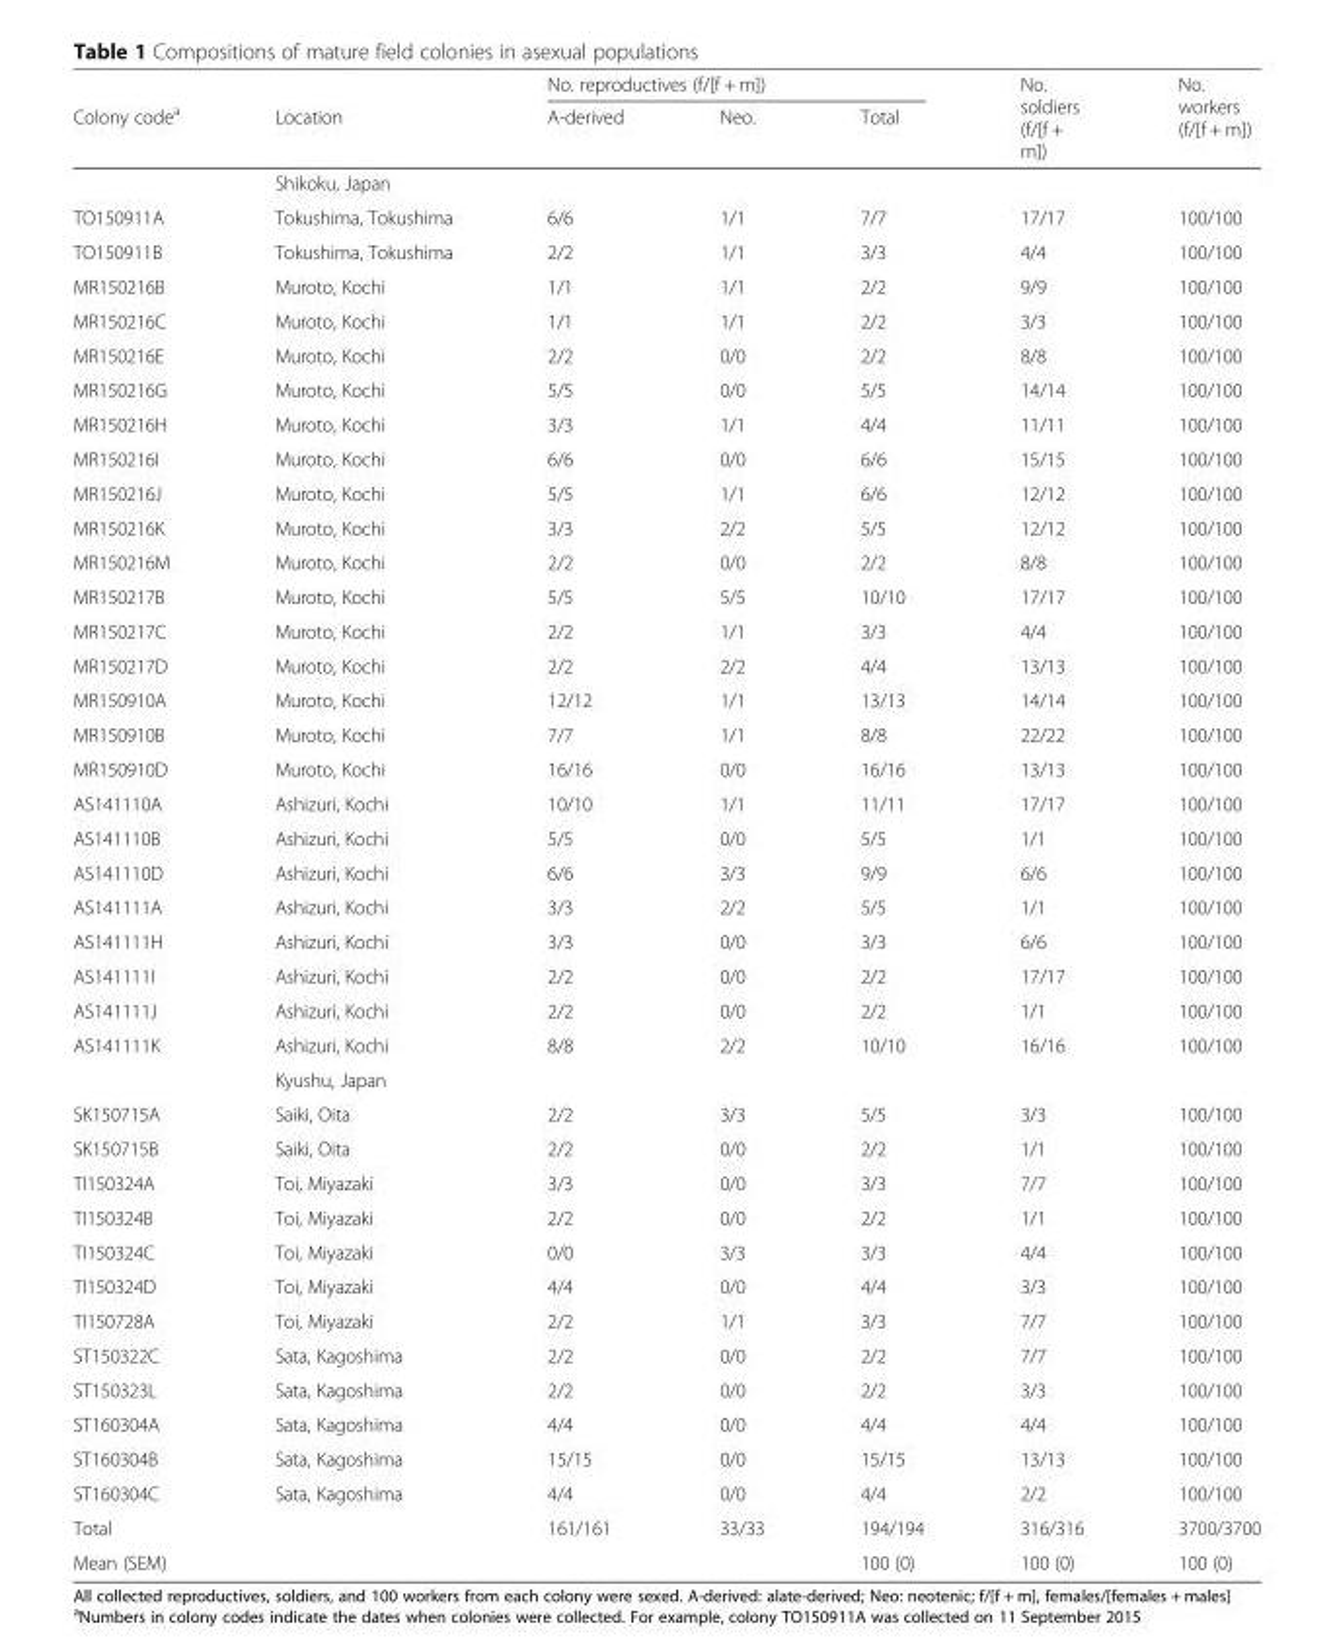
<table><thead><tr><td rowspan="2">Colony code<sup>a</sup></td><td rowspan="2">Location</td><td colspan="3">No. reproductives (f/[f + m])</td><td rowspan="2">No. soldiers (f/[f + m])</td><td rowspan="2">No. workers (f/[f + m])</td></tr><tr><td>A-derived</td><td>Neo.</td><td>Total</td></tr></thead><tbody><tr><td></td><td>Shikoku, Japan</td><td></td><td></td><td></td><td></td><td></td></tr><tr><td>TO150911A</td><td>Tokushima, Tokushima</td><td>6/6</td><td>1/1</td><td>7/7</td><td>17/17</td><td>100/100</td></tr><tr><td>TO150911B</td><td>Tokushima, Tokushima</td><td>2/2</td><td>1/1</td><td>3/3</td><td>4/4</td><td>100/100</td></tr><tr><td>MR150216B</td><td>Muroto, Kochi</td><td>1/1</td><td>1/1</td><td>2/2</td><td>9/9</td><td>100/100</td></tr><tr><td>MR150216C</td><td>Muroto, Kochi</td><td>1/1</td><td>1/1</td><td>2/2</td><td>3/3</td><td>100/100</td></tr><tr><td>MR150216E</td><td>Muroto, Kochi</td><td>2/2</td><td>0/0</td><td>2/2</td><td>8/8</td><td>100/100</td></tr><tr><td>MR150216G</td><td>Muroto, Kochi</td><td>5/5</td><td>0/0</td><td>5/5</td><td>14/14</td><td>100/100</td></tr><tr><td>MR150216H</td><td>Muroto, Kochi</td><td>3/3</td><td>1/1</td><td>4/4</td><td>11/11</td><td>100/100</td></tr><tr><td>MR150216I</td><td>Muroto, Kochi</td><td>6/6</td><td>0/0</td><td>6/6</td><td>15/15</td><td>100/100</td></tr><tr><td>MR150216J</td><td>Muroto, Kochi</td><td>5/5</td><td>1/1</td><td>6/6</td><td>12/12</td><td>100/100</td></tr><tr><td>MR150216K</td><td>Muroto, Kochi</td><td>3/3</td><td>2/2</td><td>5/5</td><td>12/12</td><td>100/100</td></tr><tr><td>MR150216M</td><td>Muroto, Kochi</td><td>2/2</td><td>0/0</td><td>2/2</td><td>8/8</td><td>100/100</td></tr><tr><td>MR150217B</td><td>Muroto, Kochi</td><td>5/5</td><td>5/5</td><td>10/10</td><td>17/17</td><td>100/100</td></tr><tr><td>MR150217C</td><td>Muroto, Kochi</td><td>2/2</td><td>1/1</td><td>3/3</td><td>4/4</td><td>100/100</td></tr><tr><td>MR150217D</td><td>Muroto, Kochi</td><td>2/2</td><td>2/2</td><td>4/4</td><td>13/13</td><td>100/100</td></tr><tr><td>MR150910A</td><td>Muroto, Kochi</td><td>12/12</td><td>1/1</td><td>13/13</td><td>14/14</td><td>100/100</td></tr><tr><td>MR150910B</td><td>Muroto, Kochi</td><td>7/7</td><td>1/1</td><td>8/8</td><td>22/22</td><td>100/100</td></tr><tr><td>MR150910D</td><td>Muroto, Kochi</td><td>16/16</td><td>0/0</td><td>16/16</td><td>13/13</td><td>100/100</td></tr><tr><td>AS141110A</td><td>Ashizuri, Kochi</td><td>10/10</td><td>1/1</td><td>11/11</td><td>17/17</td><td>100/100</td></tr><tr><td>AS141110B</td><td>Ashizuri, Kochi</td><td>5/5</td><td>0/0</td><td>5/5</td><td>1/1</td><td>100/100</td></tr><tr><td>AS141110D</td><td>Ashizuri, Kochi</td><td>6/6</td><td>3/3</td><td>9/9</td><td>6/6</td><td>100/100</td></tr><tr><td>AS141111A</td><td>Ashizuri, Kochi</td><td>3/3</td><td>2/2</td><td>5/5</td><td>1/1</td><td>100/100</td></tr><tr><td>AS141111H</td><td>Ashizuri, Kochi</td><td>3/3</td><td>0/0</td><td>3/3</td><td>6/6</td><td>100/100</td></tr><tr><td>AS141111I</td><td>Ashizuri, Kochi</td><td>2/2</td><td>0/0</td><td>2/2</td><td>17/17</td><td>100/100</td></tr><tr><td>AS141111J</td><td>Ashizuri, Kochi</td><td>2/2</td><td>0/0</td><td>2/2</td><td>1/1</td><td>100/100</td></tr><tr><td rowspan="2">AS141111K</td><td>Ashizuri, Kochi</td><td>8/8</td><td>2/2</td><td>10/10</td><td>16/16</td><td>100/100</td></tr><tr><td>Kyushu, Japan</td><td></td><td></td><td></td><td></td><td></td></tr><tr><td>SK150715A</td><td>Saiki, Oita</td><td>2/2</td><td>3/3</td><td>5/5</td><td>3/3</td><td>100/100</td></tr><tr><td>SK150715B</td><td>Saiki, Oita</td><td>2/2</td><td>0/0</td><td>2/2</td><td>1/1</td><td>100/100</td></tr><tr><td>TI150324A</td><td>Toi, Miyazaki</td><td>3/3</td><td>0/0</td><td>3/3</td><td>7/7</td><td>100/100</td></tr><tr><td>TI150324B</td><td>Toi, Miyazaki</td><td>2/2</td><td>0/0</td><td>2/2</td><td>1/1</td><td>100/100</td></tr><tr><td>TI150324C</td><td>Toi, Miyazaki</td><td>0/0</td><td>3/3</td><td>3/3</td><td>4/4</td><td>100/100</td></tr><tr><td>TI150324D</td><td>Toi, Miyazaki</td><td>4/4</td><td>0/0</td><td>4/4</td><td>3/3</td><td>100/100</td></tr><tr><td>TI150728A</td><td>Toi, Miyazaki</td><td>2/2</td><td>1/1</td><td>3/3</td><td>7/7</td><td>100/100</td></tr><tr><td>ST150322C</td><td>Sata, Kagoshima</td><td>2/2</td><td>0/0</td><td>2/2</td><td>7/7</td><td>100/100</td></tr><tr><td>ST150323L</td><td>Sata, Kagoshima</td><td>2/2</td><td>0/0</td><td>2/2</td><td>3/3</td><td>100/100</td></tr><tr><td>ST160304A</td><td>Sata, Kagoshima</td><td>4/4</td><td>0/0</td><td>4/4</td><td>4/4</td><td>100/100</td></tr><tr><td>ST160304B</td><td>Sata, Kagoshima</td><td>15/15</td><td>0/0</td><td>15/15</td><td>13/13</td><td>100/100</td></tr><tr><td>ST160304C</td><td>Sata, Kagoshima</td><td>4/4</td><td>0/0</td><td>4/4</td><td>2/2</td><td>100/100</td></tr><tr><td>Total</td><td></td><td>161/161</td><td>33/33</td><td>194/194</td><td>316/316</td><td>3700/3700</td></tr><tr><td>Mean (SEM)</td><td></td><td></td><td></td><td>100 (0)</td><td>100 (0)</td><td>100 (0)</td></tr></tbody></table>